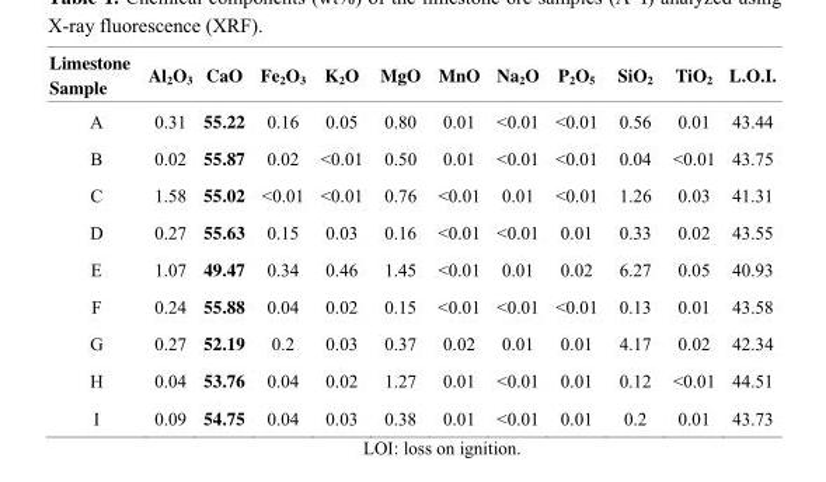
<table><thead><tr><td>Limestone Sample</td><td>Al<sub>2</sub>O<sub>3</sub></td><td>CaO</td><td>Fe<sub>2</sub>O<sub>3</sub></td><td>K<sub>2</sub>O</td><td>MgO</td><td>MnO</td><td>Na<sub>2</sub>O</td><td>P<sub>2</sub>O<sub>5</sub></td><td>SiO<sub>2</sub></td><td>TiO<sub>2</sub></td><td>L.O.I.</td></tr></thead><tbody><tr><td>A</td><td>0.31</td><td>55.22</td><td>0.16</td><td>0.05</td><td>0.80</td><td>0.01</td><td>&lt;0.01</td><td>&lt;0.01</td><td>0.56</td><td>0.01</td><td>43.44</td></tr><tr><td>B</td><td>0.02</td><td>55.87</td><td>0.02</td><td>&lt;0.01</td><td>0.50</td><td>0.01</td><td>&lt;0.01</td><td>&lt;0.01</td><td>0.04</td><td>&lt;0.01</td><td>43.75</td></tr><tr><td>C</td><td>1.58</td><td>55.02</td><td>&lt;0.01</td><td>&lt;0.01</td><td>0.76</td><td>&lt;0.01</td><td>0.01</td><td>&lt;0.01</td><td>1.26</td><td>0.03</td><td>41.31</td></tr><tr><td>D</td><td>0.27</td><td>55.63</td><td>0.15</td><td>0.03</td><td>0.16</td><td>&lt;0.01</td><td>&lt;0.01</td><td>0.01</td><td>0.33</td><td>0.02</td><td>43.55</td></tr><tr><td>E</td><td>1.07</td><td>49.47</td><td>0.34</td><td>0.46</td><td>1.45</td><td>&lt;0.01</td><td>0.01</td><td>0.02</td><td>6.27</td><td>0.05</td><td>40.93</td></tr><tr><td>F</td><td>0.24</td><td>55.88</td><td>0.04</td><td>0.02</td><td>0.15</td><td>&lt;0.01</td><td>&lt;0.01</td><td>&lt;0.01</td><td>0.13</td><td>0.01</td><td>43.58</td></tr><tr><td>G</td><td>0.27</td><td>52.19</td><td>0.2</td><td>0.03</td><td>0.37</td><td>0.02</td><td>0.01</td><td>0.01</td><td>4.17</td><td>0.02</td><td>42.34</td></tr><tr><td>H</td><td>0.04</td><td>53.76</td><td>0.04</td><td>0.02</td><td>1.27</td><td>0.01</td><td>&lt;0.01</td><td>0.01</td><td>0.12</td><td>&lt;0.01</td><td>44.51</td></tr><tr><td>I</td><td>0.09</td><td>54.75</td><td>0.04</td><td>0.03</td><td>0.38</td><td>0.01</td><td>&lt;0.01</td><td>0.01</td><td>0.2</td><td>0.01</td><td>43.73</td></tr></tbody></table>